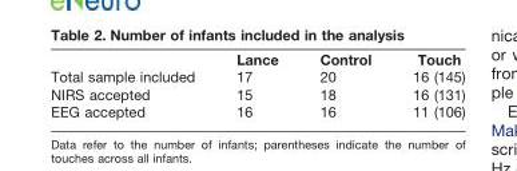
<table><thead><tr><td></td><td>Lance</td><td>Control</td><td>Touch</td></tr></thead><tbody><tr><td>Total sample included</td><td>17</td><td>20</td><td>16 (145)</td></tr><tr><td>NIRS accepted</td><td>15</td><td>18</td><td>16 (131)</td></tr><tr><td>EEG accepted</td><td>16</td><td>16</td><td>11 (106)</td></tr></tbody></table>